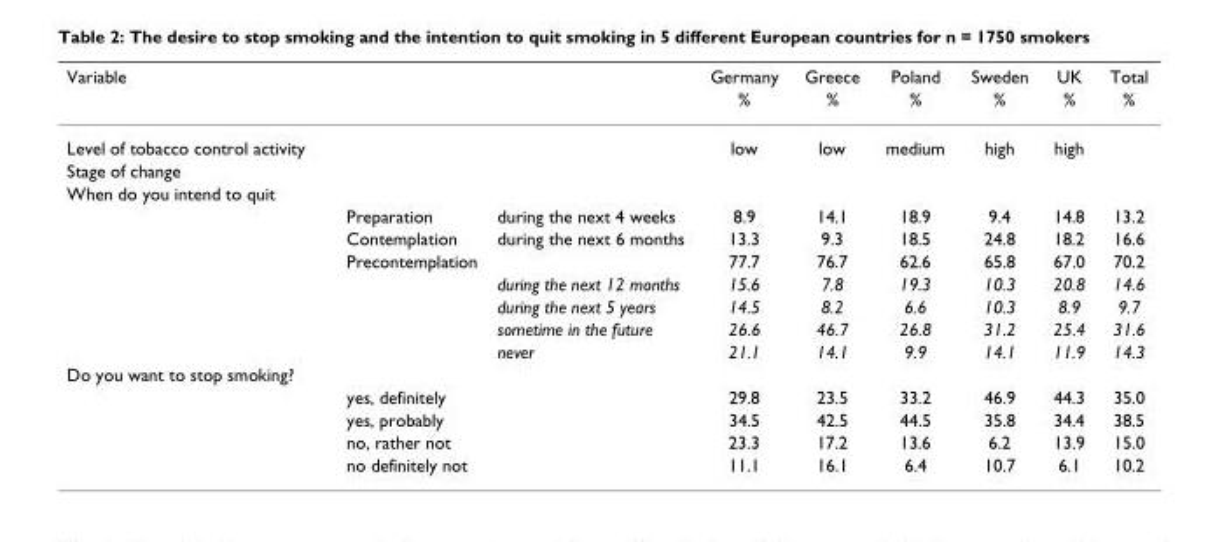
<table><thead><tr><td rowspan="2">Variable</td><td rowspan="2"></td><td rowspan="2"></td><td rowspan="2">Germany %</td><td rowspan="2">Greece %</td><td rowspan="2">Poland %</td><td rowspan="2">Sweden %</td><td rowspan="2">UK %</td><td rowspan="2">Total %</td></tr><tr></tr></thead><tbody><tr><td>Level of tobacco control activity</td><td></td><td></td><td>low</td><td>low</td><td>medium</td><td>high</td><td>high</td><td></td></tr><tr><td colspan="9">Stage of change</td></tr><tr><td colspan="9">When do you intend to quit</td></tr><tr><td></td><td>Preparation</td><td>during the next 4 weeks</td><td>8.9</td><td>14.1</td><td>18.9</td><td>9.4</td><td>14.8</td><td>13.2</td></tr><tr><td></td><td>Contemplation</td><td>during the next 6 months</td><td>13.3</td><td>9.3</td><td>18.5</td><td>24.8</td><td>18.2</td><td>16.6</td></tr><tr><td></td><td>Precontemplation</td><td></td><td>77.7</td><td>76.7</td><td>62.6</td><td>65.8</td><td>67.0</td><td>70.2</td></tr><tr><td></td><td></td><td>during the next 12 months</td><td>15.6</td><td>7.8</td><td>19.3</td><td>10.3</td><td>20.8</td><td>14.6</td></tr><tr><td></td><td></td><td>during the next 5 years</td><td>14.5</td><td>8.2</td><td>6.6</td><td>10.3</td><td>8.9</td><td>9.7</td></tr><tr><td></td><td></td><td>sometime in the future</td><td>26.6</td><td>46.7</td><td>26.8</td><td>31.2</td><td>25.4</td><td>31.6</td></tr><tr><td></td><td></td><td>never</td><td>21.1</td><td>14.1</td><td>9.9</td><td>14.1</td><td>11.9</td><td>14.3</td></tr><tr><td colspan="9">Do you want to stop smoking?</td></tr><tr><td></td><td>yes, definitely</td><td></td><td>29.8</td><td>23.5</td><td>33.2</td><td>46.9</td><td>44.3</td><td>35.0</td></tr><tr><td></td><td>yes, probably</td><td></td><td>34.5</td><td>42.5</td><td>44.5</td><td>35.8</td><td>34.4</td><td>38.5</td></tr><tr><td></td><td>no, rather not</td><td></td><td>23.3</td><td>17.2</td><td>13.6</td><td>6.2</td><td>13.9</td><td>15.0</td></tr><tr><td></td><td>no definitely not</td><td></td><td>11.1</td><td>16.1</td><td>6.4</td><td>10.7</td><td>6.1</td><td>10.2</td></tr></tbody></table>